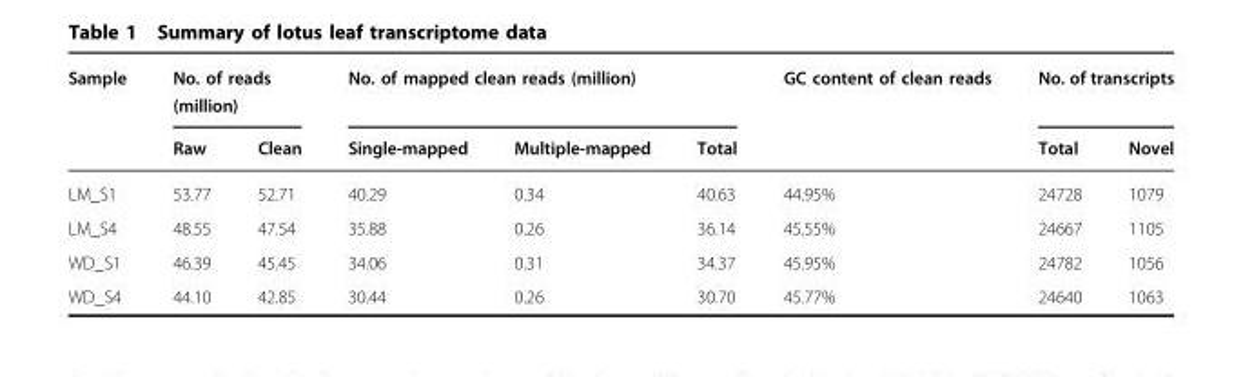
<table><thead><tr><td rowspan="2">Sample</td><td colspan="2">No. of reads (million)</td><td colspan="3">No. of mapped clean reads (million)</td><td rowspan="2">GC content of clean reads</td><td colspan="2">No. of transcripts</td></tr><tr><td>Raw</td><td>Clean</td><td>Single-mapped</td><td>Multiple-mapped</td><td>Total</td><td>Total</td><td>Novel</td></tr></thead><tbody><tr><td>LM_S1</td><td>53.77</td><td>52.71</td><td>40.29</td><td>0.34</td><td>40.63</td><td>44.95%</td><td>24728</td><td>1079</td></tr><tr><td>LM_S4</td><td>48.55</td><td>47.54</td><td>35.88</td><td>0.26</td><td>36.14</td><td>45.55%</td><td>24667</td><td>1105</td></tr><tr><td>WD_S1</td><td>46.39</td><td>45.45</td><td>34.06</td><td>0.31</td><td>34.37</td><td>45.95%</td><td>24782</td><td>1056</td></tr><tr><td>WD_S4</td><td>44.10</td><td>42.85</td><td>30.44</td><td>0.26</td><td>30.70</td><td>45.77%</td><td>24640</td><td>1063</td></tr></tbody></table>